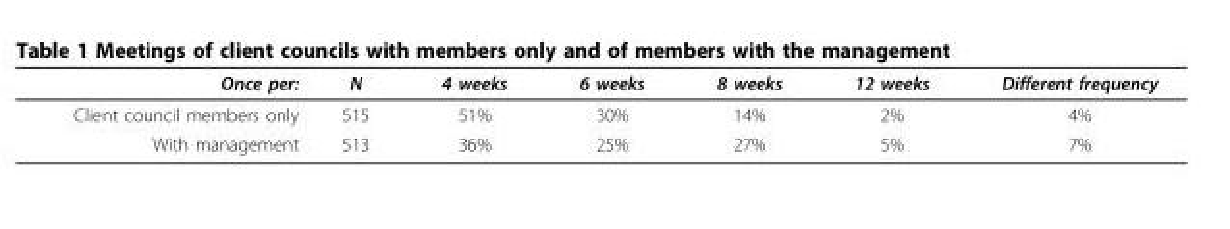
<table><thead><tr><td>Once per:</td><td>N</td><td>4 weeks</td><td>6 weeks</td><td>8 weeks</td><td>12 weeks</td><td>Different frequency</td></tr></thead><tbody><tr><td>Client council members only</td><td>515</td><td>51%</td><td>30%</td><td>14%</td><td>2%</td><td>4%</td></tr><tr><td>With management</td><td>513</td><td>36%</td><td>25%</td><td>27%</td><td>5%</td><td>7%</td></tr></tbody></table>